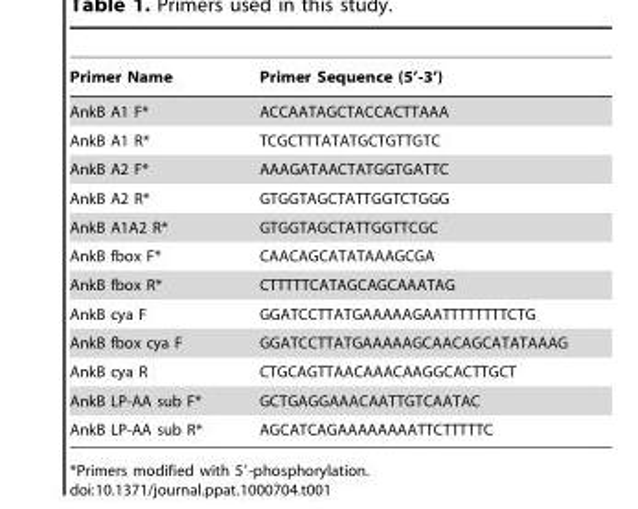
<table><thead><tr><td>Primer Name</td><td>Primer Sequence (5’-3’)</td></tr></thead><tbody><tr><td>AnkB A1 F*</td><td>ACCAATAGCTACCACTTAAA</td></tr><tr><td>AnkB A1 R*</td><td>TCGCTTTATATGCTGTTGTC</td></tr><tr><td>AnkB A2 F*</td><td>AAAGATAACTATGGTGATTC</td></tr><tr><td>AnkB A2 R*</td><td>GTGGTAGCTATTGGTCTGGG</td></tr><tr><td>AnkB A1A2 R*</td><td>GTGGTAGCTATTGGTTCGC</td></tr><tr><td>AnkB fbox F*</td><td>CAACAGCATATAAAGCGA</td></tr><tr><td>AnkB fbox R*</td><td>CTTTTTCATAGCAGCAAATAG</td></tr><tr><td>AnkB cya F</td><td>GGATCCTTATGAAAAAGAATTTTTTTTCTG</td></tr><tr><td>AnkB fbox cya F</td><td>GGATCCTTATGAAAAAGCAACAGCATATAAAG</td></tr><tr><td>AnkB cya R</td><td>CTGCAGTTAACAAACAAGGCACTTGCT</td></tr><tr><td>AnkB LP-AA sub F*</td><td>GCTGAGGAAACAATTGTCAATAC</td></tr><tr><td>AnkB LP-AA sub R*</td><td>AGCATCAGAAAAAAAATTCTTTTTC</td></tr></tbody></table>